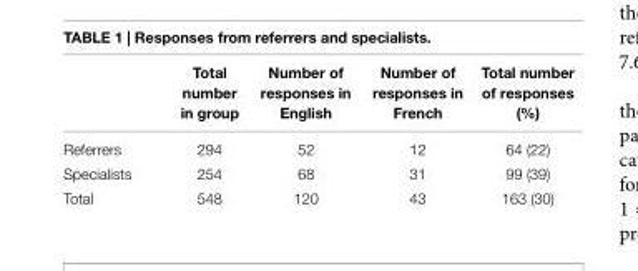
<table><thead><tr><td></td><td>Total number in group</td><td>number of responses in english</td><td>number of responses in French</td><td>Total number of responses (%)</td></tr></thead><tbody><tr><td>Referrers</td><td>294</td><td>52</td><td>12</td><td>64 (22)</td></tr><tr><td>Specialists</td><td>254</td><td>68</td><td>31</td><td>99 (39)</td></tr><tr><td>Total</td><td>548</td><td>120</td><td>43</td><td>163 (30)</td></tr></tbody></table>